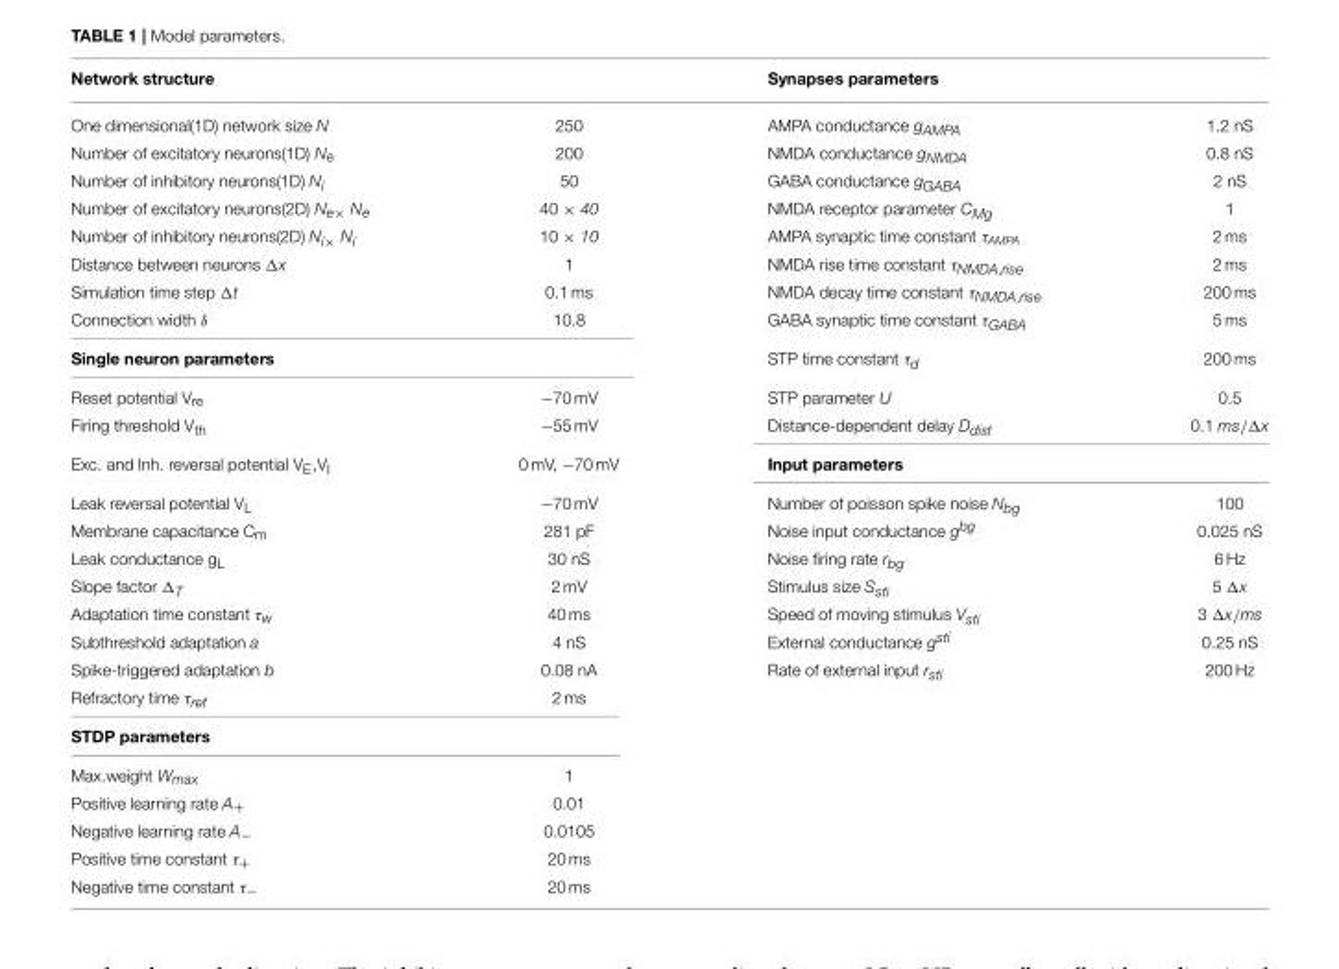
<table><thead><tr><td colspan="2">Network structure</td><td colspan="2">Synapses parameters</td></tr><tr><td>One dimensional(1D) network size N</td><td>250</td><td>AMPA conductance gAMPA</td><td>1.2 nS</td></tr></thead><tbody><tr><td>Number of excitatory neurons(1D) N<sub>e</sub></td><td>200</td><td>NMDA conductance gNMDA</td><td>0.8 nS</td></tr><tr><td>Number of inhibitory neurons(1D) Ni</td><td>50</td><td>GABA conductance gGABA</td><td>2 nS</td></tr><tr><td>Number of excitatory neurons(2D) Ne× Ne</td><td>40 × 40</td><td>NMDA receptor parameter CMg</td><td>1</td></tr><tr><td>Number of inhibitory neurons(2D) Ni× Ni</td><td>10 × 10</td><td>AMPA synaptic time constant τ<sub>AMPA</sub></td><td>2 ms</td></tr><tr><td>Distance between neurons Δx</td><td>1</td><td>NMDA rise time constant τ<sub>NMDA,rise</sub></td><td>2 ms</td></tr><tr><td>Simulation time step Δt</td><td>0.1 ms</td><td>NMDA decay time constant τ<sub>NMDA,rise</sub></td><td>200 ms</td></tr><tr><td>Connection width δ</td><td>10.8</td><td>GABA synaptic time constant τ<sub>GABA</sub></td><td>5 ms</td></tr><tr><td colspan="2">Single neuron parameters</td><td>STP time constant τ<sub>d</sub></td><td>200 ms</td></tr><tr><td>Reset potential V<sub>re</sub></td><td>−70 mV</td><td>STP parameter U</td><td>0.5</td></tr><tr><td>Firing threshold V<sub>th</sub></td><td>−55 mV</td><td>Distance-dependent delay Ddist</td><td>0.1 ms/Δx</td></tr><tr><td>Exc. and Inh. reversal potential V<sub>E</sub>,V<sub>I</sub></td><td>0 mV, −70 mV</td><td colspan="2">Input parameters</td></tr><tr><td>Leak reversal potential V<sub>L</sub></td><td>−70 mV</td><td>Number of poisson spike noise Nbg</td><td>100</td></tr><tr><td>Membrane capacitance C<sub>m</sub></td><td>281 pF</td><td>Noise input conductance gbg</td><td>0.025 nS</td></tr><tr><td>Leak conductance g<sub>L</sub></td><td>30 nS</td><td>Noise firing rate rbg</td><td>6 Hz</td></tr><tr><td>Slope factor Δ<sub>T</sub></td><td>2 mV</td><td>Stimulus size Ssti</td><td>5 Δx</td></tr><tr><td>Adaptation time constant τ<sub>w</sub></td><td>40 ms</td><td>Speed of moving stimulus Vsti</td><td>3 Δx/ms</td></tr><tr><td>Subthreshold adaptation a</td><td>4 nS</td><td>External conductance gsti</td><td>0.25 nS</td></tr><tr><td>Spike-triggered adaptation b</td><td>0.08 nA</td><td>Rate of external input rsti</td><td>200 Hz</td></tr><tr><td>Refractory time τ<sub>ref</sub></td><td>2 ms</td><td></td><td></td></tr><tr><td colspan="4">STDP parameters</td></tr><tr><td>Max.weight Wmax</td><td>1</td><td></td><td></td></tr><tr><td>Positive learning rate A<sub>+</sub></td><td>0.01</td><td></td><td></td></tr><tr><td>Negative learning rate A<sub>−</sub></td><td>0.0105</td><td></td><td></td></tr><tr><td>Positive time constant τ<sub>+</sub></td><td>20 ms</td><td></td><td></td></tr><tr><td>Negative time constant τ<sub>−</sub></td><td>20 ms</td><td></td><td></td></tr></tbody></table>